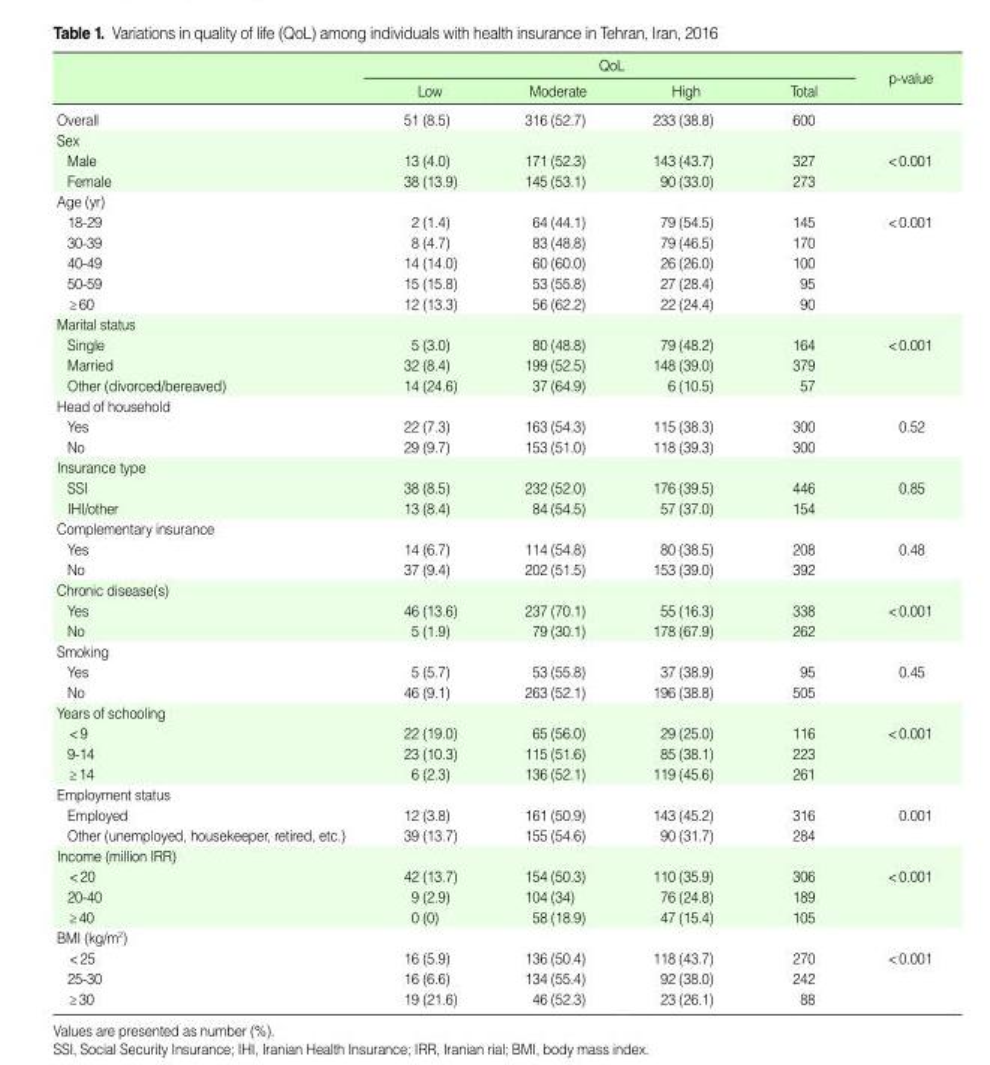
<table><thead><tr><td rowspan="2"></td><td colspan="4">QoL</td><td rowspan="2">p-value</td></tr><tr><td>Low</td><td>Moderate</td><td>High</td><td>Total</td></tr></thead><tbody><tr><td>Overall</td><td>51 (8.5)</td><td>316 (52.7)</td><td>233 (38.8)</td><td>600</td><td></td></tr><tr><td colspan="6">Sex</td></tr><tr><td>Male</td><td>13 (4.0)</td><td>171 (52.3)</td><td>143 (43.7)</td><td>327</td><td>&lt;0.001</td></tr><tr><td>Female</td><td>38 (13.9)</td><td>145 (53.1)</td><td>90 (33.0)</td><td>273</td><td></td></tr><tr><td colspan="6">Age (yr)</td></tr><tr><td>18-29</td><td>2 (1.4)</td><td>64 (44.1)</td><td>79 (54.5)</td><td>145</td><td>&lt;0.001</td></tr><tr><td>30-39</td><td>8 (4.7)</td><td>83 (48.8)</td><td>79 (46.5)</td><td>170</td><td></td></tr><tr><td>40-49</td><td>14 (14.0)</td><td>60 (60.0)</td><td>26 (26.0)</td><td>100</td><td></td></tr><tr><td>50-59</td><td>15 (15.8)</td><td>53 (55.8)</td><td>27 (28.4)</td><td>95</td><td></td></tr><tr><td>≥60</td><td>12 (13.3)</td><td>56 (62.2)</td><td>22 (24.4)</td><td>90</td><td></td></tr><tr><td colspan="6">Marital status</td></tr><tr><td>Single</td><td>5 (3.0)</td><td>80 (48.8)</td><td>79 (48.2)</td><td>164</td><td>&lt;0.001</td></tr><tr><td>Married</td><td>32 (8.4)</td><td>199 (52.5)</td><td>148 (39.0)</td><td>379</td><td></td></tr><tr><td>Other (divorced/bereaved)</td><td>14 (24.6)</td><td>37 (64.9)</td><td>6 (10.5)</td><td>57</td><td></td></tr><tr><td colspan="6">Head of household</td></tr><tr><td>Yes</td><td>22 (7.3)</td><td>163 (54.3)</td><td>115 (38.3)</td><td>300</td><td>0.52</td></tr><tr><td>No</td><td>29 (9.7)</td><td>153 (51.0)</td><td>118 (39.3)</td><td>300</td><td></td></tr><tr><td colspan="6">Insurance type</td></tr><tr><td>SSI</td><td>38 (8.5)</td><td>232 (52.0)</td><td>176 (39.5)</td><td>446</td><td>0.85</td></tr><tr><td>IHI/other</td><td>13 (8.4)</td><td>84 (54.5)</td><td>57 (37.0)</td><td>154</td><td></td></tr><tr><td colspan="6">Complementary insurance</td></tr><tr><td>Yes</td><td>14 (6.7)</td><td>114 (54.8)</td><td>80 (38.5)</td><td>208</td><td>0.48</td></tr><tr><td>No</td><td>37 (9.4)</td><td>202 (51.5)</td><td>153 (39.0)</td><td>392</td><td></td></tr><tr><td colspan="6">Chronic disease(s)</td></tr><tr><td>Yes</td><td>46 (13.6)</td><td>237 (70.1)</td><td>55 (16.3)</td><td>338</td><td>&lt;0.001</td></tr><tr><td>No</td><td>5 (1.9)</td><td>79 (30.1)</td><td>178 (67.9)</td><td>262</td><td></td></tr><tr><td colspan="6">Smoking</td></tr><tr><td>Yes</td><td>5 (5.7)</td><td>53 (55.8)</td><td>37 (38.9)</td><td>95</td><td>0.45</td></tr><tr><td>No</td><td>46 (9.1)</td><td>263 (52.1)</td><td>196 (38.8)</td><td>505</td><td></td></tr><tr><td colspan="6">Years of schooling</td></tr><tr><td>&lt;9</td><td>22 (19.0)</td><td>65 (56.0)</td><td>29 (25.0)</td><td>116</td><td>&lt;0.001</td></tr><tr><td>9-14</td><td>23 (10.3)</td><td>115 (51.6)</td><td>85 (38.1)</td><td>223</td><td></td></tr><tr><td>≥14</td><td>6 (2.3)</td><td>136 (52.1)</td><td>119 (45.6)</td><td>261</td><td></td></tr><tr><td colspan="6">Employment status</td></tr><tr><td>Employed</td><td>12 (3.8)</td><td>161 (50.9)</td><td>143 (45.2)</td><td>316</td><td>0.001</td></tr><tr><td>Other (unemployed, housekeeper, retired, etc.)</td><td>39 (13.7)</td><td>155 (54.6)</td><td>90 (31.7)</td><td>284</td><td></td></tr><tr><td colspan="6">Income (million IRR)</td></tr><tr><td>&lt;20</td><td>42 (13.7)</td><td>154 (50.3)</td><td>110 (35.9)</td><td>306</td><td>&lt;0.001</td></tr><tr><td>20-40</td><td>9 (2.9)</td><td>104 (34)</td><td>76 (24.8)</td><td>189</td><td></td></tr><tr><td>≥40</td><td>0 (0)</td><td>58 (18.9)</td><td>47 (15.4)</td><td>105</td><td></td></tr><tr><td colspan="6">BMI (kg/m<sup>2</sup>)</td></tr><tr><td>&lt;25</td><td>16 (5.9)</td><td>136 (50.4)</td><td>118 (43.7)</td><td>270</td><td>&lt;0.001</td></tr><tr><td>25-30</td><td>16 (6.6)</td><td>134 (55.4)</td><td>92 (38.0)</td><td>242</td><td></td></tr><tr><td>≥30</td><td>19 (21.6)</td><td>46 (52.3)</td><td>23 (26.1)</td><td>88</td><td></td></tr></tbody></table>